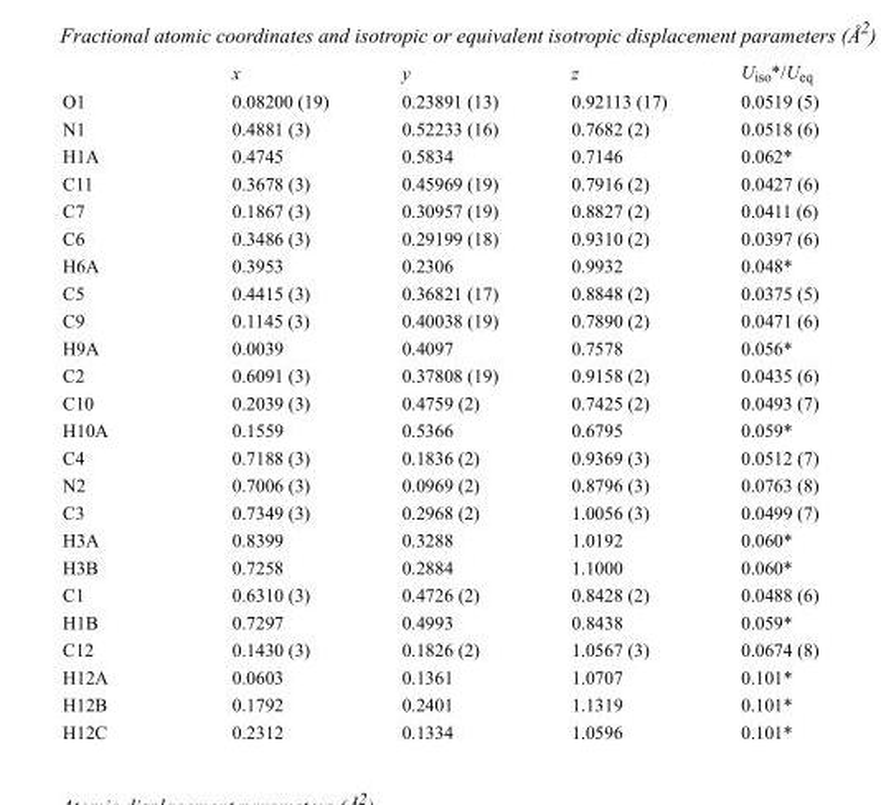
<table><thead><tr><td></td><td>x</td><td>y</td><td>z</td><td>U<sub>iso</sub>*/U<sub>eq</sub></td></tr></thead><tbody><tr><td>O1</td><td>0.08200 (19)</td><td>0.23891 (13)</td><td>0.92113 (17)</td><td>0.0519 (5)</td></tr><tr><td>N1</td><td>0.4881 (3)</td><td>0.52233 (16)</td><td>0.7682 (2)</td><td>0.0518 (6)</td></tr><tr><td>H1A</td><td>0.4745</td><td>0.5834</td><td>0.7146</td><td>0.062*</td></tr><tr><td>C11</td><td>0.3678 (3)</td><td>0.45969 (19)</td><td>0.7916 (2)</td><td>0.0427 (6)</td></tr><tr><td>C7</td><td>0.1867 (3)</td><td>0.30957 (19)</td><td>0.8827 (2)</td><td>0.0411 (6)</td></tr><tr><td>C6</td><td>0.3486 (3)</td><td>0.29199 (18)</td><td>0.9310 (2)</td><td>0.0397 (6)</td></tr><tr><td>H6A</td><td>0.3953</td><td>0.2306</td><td>0.9932</td><td>0.048*</td></tr><tr><td>C5</td><td>0.4415 (3)</td><td>0.36821 (17)</td><td>0.8848 (2)</td><td>0.0375 (5)</td></tr><tr><td>C9</td><td>0.1145 (3)</td><td>0.40038 (19)</td><td>0.7890 (2)</td><td>0.0471 (6)</td></tr><tr><td>H9A</td><td>0.0039</td><td>0.4097</td><td>0.7578</td><td>0.056*</td></tr><tr><td>C2</td><td>0.6091 (3)</td><td>0.37808 (19)</td><td>0.9158 (2)</td><td>0.0435 (6)</td></tr><tr><td>C10</td><td>0.2039 (3)</td><td>0.4759 (2)</td><td>0.7425 (2)</td><td>0.0493 (7)</td></tr><tr><td>H10A</td><td>0.1559</td><td>0.5366</td><td>0.6795</td><td>0.059*</td></tr><tr><td>C4</td><td>0.7188 (3)</td><td>0.1836 (2)</td><td>0.9369 (3)</td><td>0.0512 (7)</td></tr><tr><td>N2</td><td>0.7006 (3)</td><td>0.0969 (2)</td><td>0.8796 (3)</td><td>0.0763 (8)</td></tr><tr><td>C3</td><td>0.7349 (3)</td><td>0.2968 (2)</td><td>1.0056 (3)</td><td>0.0499 (7)</td></tr><tr><td>H3A</td><td>0.8399</td><td>0.3288</td><td>1.0192</td><td>0.060*</td></tr><tr><td>H3B</td><td>0.7258</td><td>0.2884</td><td>1.1000</td><td>0.060*</td></tr><tr><td>C1</td><td>0.6310 (3)</td><td>0.4726 (2)</td><td>0.8428 (2)</td><td>0.0488 (6)</td></tr><tr><td>H1B</td><td>0.7297</td><td>0.4993</td><td>0.8438</td><td>0.059*</td></tr><tr><td>C12</td><td>0.1430 (3)</td><td>0.1826 (2)</td><td>1.0567 (3)</td><td>0.0674 (8)</td></tr><tr><td>H12A</td><td>0.0603</td><td>0.1361</td><td>1.0707</td><td>0.101*</td></tr><tr><td>H12B</td><td>0.1792</td><td>0.2401</td><td>1.1319</td><td>0.101*</td></tr><tr><td>H12C</td><td>0.2312</td><td>0.1334</td><td>1.0596</td><td>0.101*</td></tr></tbody></table>